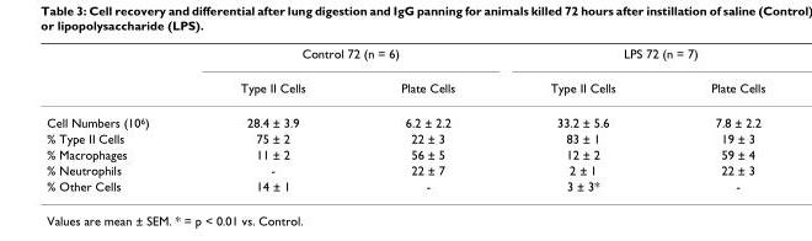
<table><thead><tr><td rowspan="2"></td><td colspan="2">Control 72 (n = 6)</td><td colspan="2">LPS 72 (n = 7)</td></tr><tr><td>Type II Cells</td><td>Plate Cells</td><td>Type II Cells</td><td>Plate Cells</td></tr></thead><tbody><tr><td>Cell Numbers (10<sup>6</sup>)</td><td>28.4 ± 3.9</td><td>6.2 ± 2.2</td><td>33.2 ± 5.6</td><td>7.8 ± 2.2</td></tr><tr><td>% Type II Cells</td><td>75 ± 2</td><td>22 ± 3</td><td>83 ± 1</td><td>19 ± 3</td></tr><tr><td>% Macrophages</td><td>11 ± 2</td><td>56 ± 5</td><td>12 ± 2</td><td>59 ± 4</td></tr><tr><td>% Neutrophils</td><td>-</td><td>22 ± 7</td><td>2 ± 1</td><td>22 ± 3</td></tr><tr><td>% Other Cells</td><td>14 ± 1</td><td>-</td><td>3 ± 3*</td><td>-</td></tr></tbody></table>